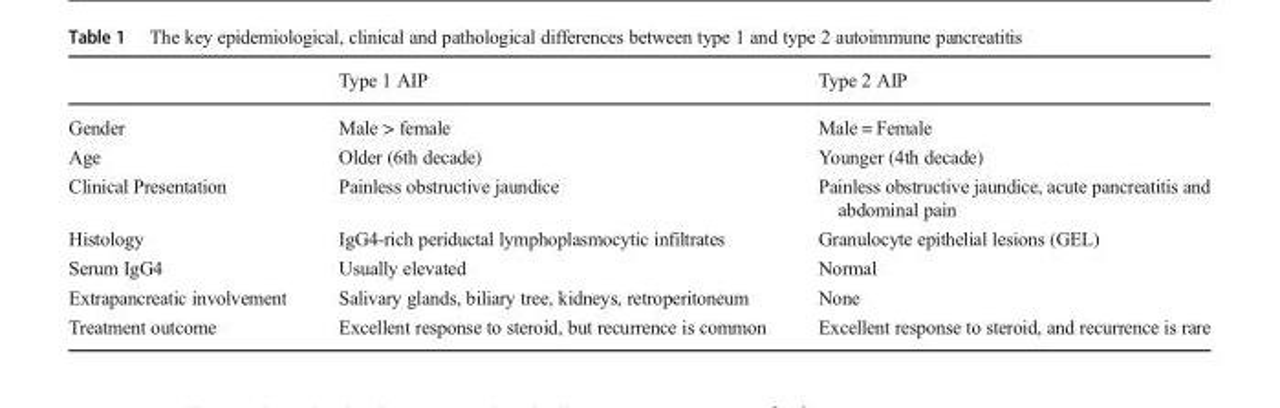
<table><thead><tr><td></td><td>Type 1 AIP</td><td>Type 2 AIP</td></tr></thead><tbody><tr><td>Gender</td><td>Male &gt; female</td><td>Male = Female</td></tr><tr><td>Age</td><td>Older (6th decade)</td><td>Younger (4th decade)</td></tr><tr><td>Clinical Presentation</td><td>Painless obstructive jaundice</td><td>Painless obstructive jaundice, acute pancreatitis and abdominal pain</td></tr><tr><td>Histology</td><td>IgG4-rich periductal lymphoplasmocytic infiltrates</td><td>Granulocyte epithelial lesions (GEL)</td></tr><tr><td>Serum IgG4</td><td>Usually elevated</td><td>Normal</td></tr><tr><td>Extrapancreatic involvement</td><td>Salivary glands, biliary tree, kidneys, retroperitoneum</td><td>None</td></tr><tr><td>Treatment outcome</td><td>Excellent response to steroid, but recurrence is common</td><td>Excellent response to steroid, and recurrence is rare</td></tr></tbody></table>